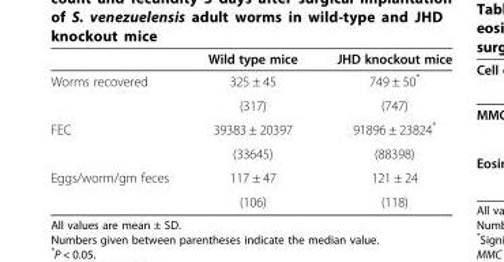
<table><thead><tr><td></td><td>Wild type mice</td><td>JHD knockout mice</td></tr></thead><tbody><tr><td rowspan="2">Worms recovered</td><td>325 ± 45</td><td>749 ± 50*</td></tr><tr><td>(317)</td><td>(747)</td></tr><tr><td rowspan="2">FEC</td><td>39383 ± 20397</td><td>91896 ± 23824*</td></tr><tr><td>(33645)</td><td>(88398)</td></tr><tr><td rowspan="2">Eggs/worm/gm feces</td><td>117 ± 47</td><td>121 ± 24</td></tr><tr><td>(106)</td><td>(118)</td></tr></tbody></table>